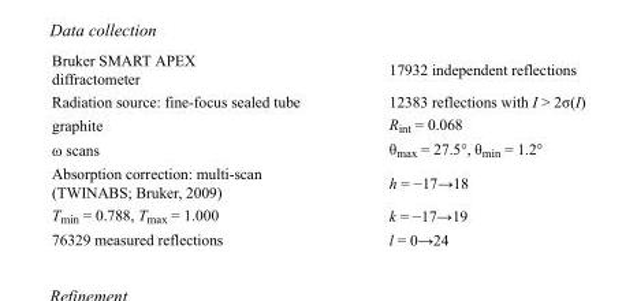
<table><tbody><tr><td>Bruker SMART APEX diffractometer</td><td>17932 independent reflections</td></tr><tr><td>Radiation source: fine-focus sealed tube</td><td>12383 reflections with I &gt; 2σ(I)</td></tr><tr><td>graphite</td><td>R<sub>int</sub> = 0.068</td></tr><tr><td>ω scans</td><td>θ<sub>max</sub> = 27.5°, θ<sub>min</sub> = 1.2°</td></tr><tr><td>Absorption correction: multi-scan (TWINABS; Bruker, 2009)</td><td>h = −17→18</td></tr><tr><td>T<sub>min</sub> = 0.788, T<sub>max</sub> = 1.000</td><td>k = −17→19</td></tr><tr><td>76329 measured reflections</td><td>l = 0→24</td></tr></tbody></table>